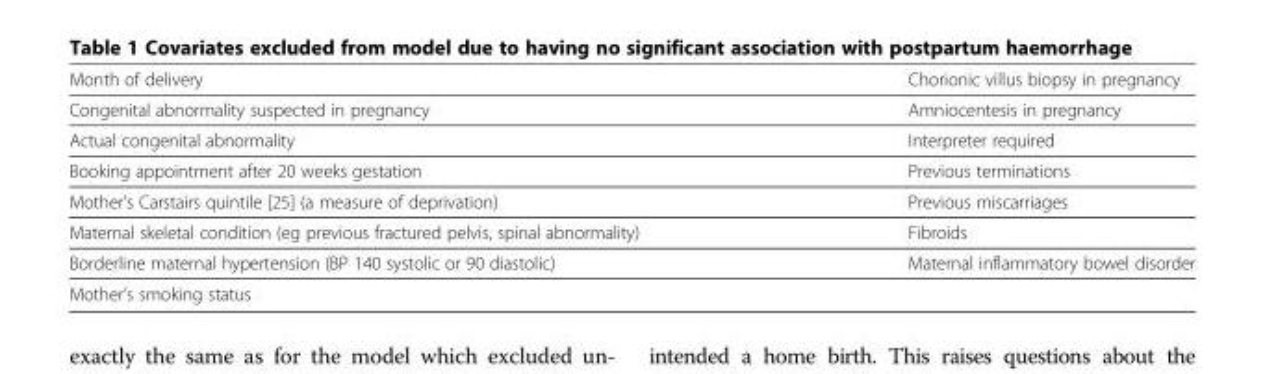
<table><tbody><tr><td>Month of delivery</td><td>Chorionic villus biopsy in pregnancy</td></tr><tr><td>Congenital abnormality suspected in pregnancy</td><td>Amniocentesis in pregnancy</td></tr><tr><td>Actual congenital abnormality</td><td>Interpreter required</td></tr><tr><td>Booking appointment after 20 weeks gestation</td><td>Previous terminations</td></tr><tr><td>Mother’s Carstairs quintile [25] (a measure of deprivation)</td><td>Previous miscarriages</td></tr><tr><td>Maternal skeletal condition (eg previous fractured pelvis, spinal abnormality)</td><td>Fibroids</td></tr><tr><td>Borderline maternal hypertension (BP 140 systolic or 90 diastolic)</td><td>Maternal inflammatory bowel disorder</td></tr><tr><td>Mother’s smoking status</td><td></td></tr></tbody></table>